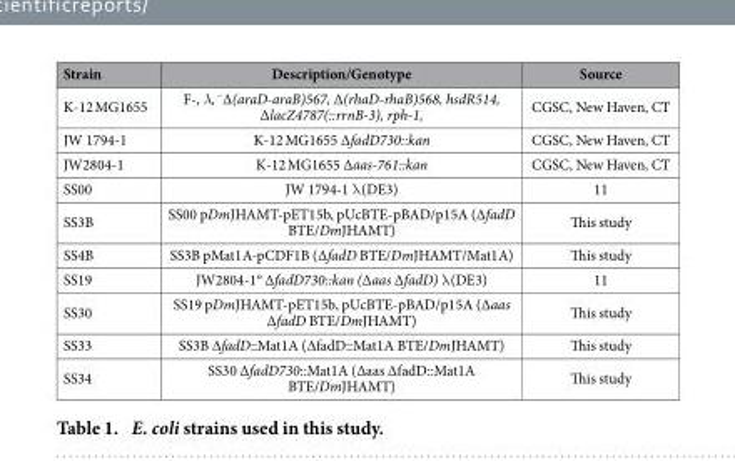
<table><thead><tr><td>Strain</td><td>Description/Genotype</td><td>Source</td></tr></thead><tbody><tr><td>K-12 MG1655</td><td>F-, λ,<sup>−</sup>Δ(araD-araB)567, Δ(rhaD-rhaB)568, hsdR514, ΔlacZ4787(::rrnB-3), rph-1,</td><td>CGSC, New Haven, CT</td></tr><tr><td>JW 1794-1</td><td>K-12 MG1655 ΔfadD730::kan</td><td>CGSC, New Haven, CT</td></tr><tr><td>JW2804-1</td><td>K-12 MG1655 Δaas-761::kan</td><td>CGSC, New Haven, CT</td></tr><tr><td>SS00</td><td>JW 1794-1 λ (DE3)</td><td>11</td></tr><tr><td>SS3B</td><td>SS00 pDmJHAMT-pET15b, pUcBTE-pBAD/p15A (ΔfadD BTE/DmJHAMT)</td><td>This study</td></tr><tr><td>SS4B</td><td>SS3B pMat1A-pCDF1B (ΔfadD BTE/DmJHAMT/Mat1A)</td><td>This study</td></tr><tr><td>SS19</td><td>JW2804-1° ΔfadD730::kan (Δaas ΔfadD) λ (DE3)</td><td>11</td></tr><tr><td>SS30</td><td>SS19 pDmJHAMT-pET15b, pUcBTE-pBAD/p15A (Δaas ΔfadD BTE/DmJHAMT)</td><td>This study</td></tr><tr><td>SS33</td><td>SS3B ∆fadD::Mat1A (∆fadD::Mat1A BTE/DmJHAMT)</td><td>This study</td></tr><tr><td>SS34</td><td>SS30 ΔfadD730::Mat1A (Δaas ΔfadD::Mat1A BTE/DmJHAMT)</td><td>This study</td></tr></tbody></table>